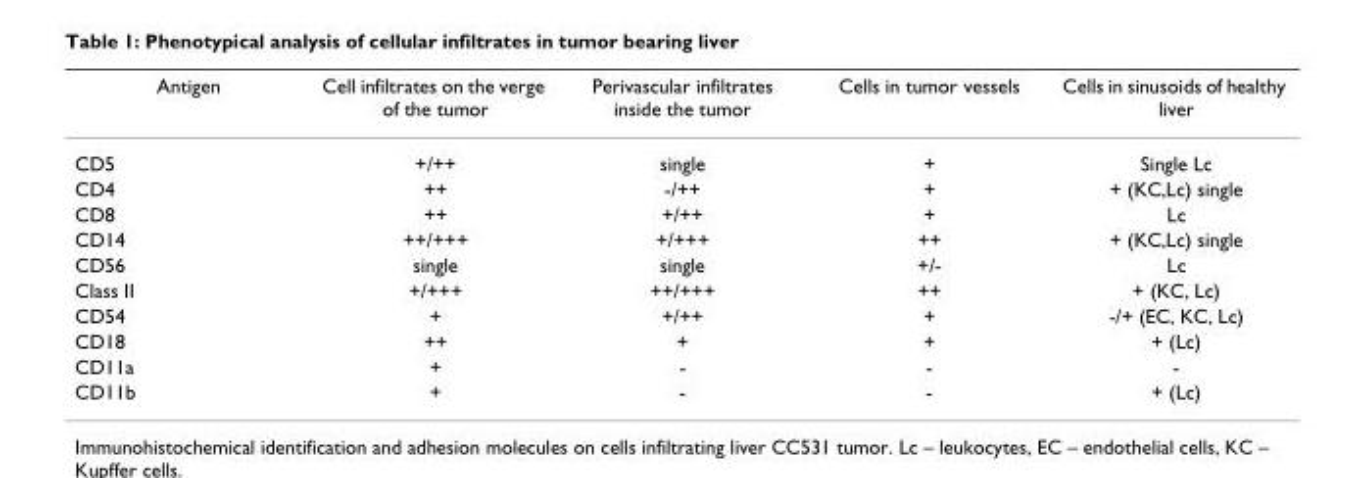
<table><thead><tr><td>Antigen</td><td>Cell infiltrates on the verge of the tumor</td><td>Perivascular infiltrates inside the tumor</td><td>Cells in tumor vessels</td><td>Cells in sinusoids of healthy liver</td></tr></thead><tbody><tr><td>CD5</td><td>+/++</td><td>single</td><td>+</td><td>Single Lc</td></tr><tr><td>CD4</td><td>++</td><td>-/++</td><td>+</td><td>+ (KC,Lc) single</td></tr><tr><td>CD8</td><td>++</td><td>+/++</td><td>+</td><td>Lc</td></tr><tr><td>CD14</td><td>++/+++</td><td>+/+++</td><td>++</td><td>+ (KC,Lc) single</td></tr><tr><td>CD56</td><td>single</td><td>single</td><td>+/-</td><td>Lc</td></tr><tr><td>Class II</td><td>+/+++</td><td>++/+++</td><td>++</td><td>+ (KC, Lc)</td></tr><tr><td>CD54</td><td>+</td><td>+/++</td><td>+</td><td>-/+ (EC, KC, Lc)</td></tr><tr><td>CD18</td><td>++</td><td>+</td><td>+</td><td>+ (Lc)</td></tr><tr><td>CD11a</td><td>+</td><td>-</td><td>-</td><td>-</td></tr><tr><td>CD11b</td><td>+</td><td>-</td><td>-</td><td>+ (Lc)</td></tr></tbody></table>